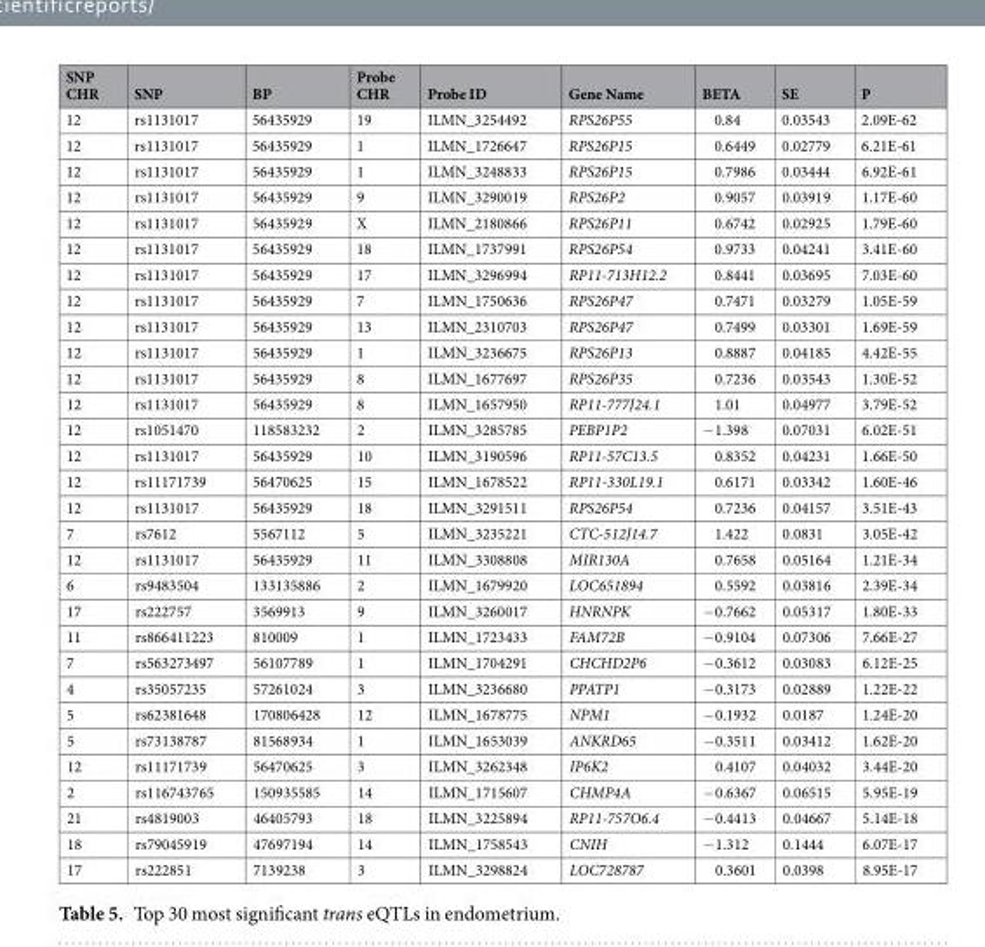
<table><thead><tr><td>SNP CHR</td><td>SNP</td><td>BP</td><td>Probe CHR</td><td>Probe ID</td><td>Gene Name</td><td>BETA</td><td>SE</td><td>P</td></tr></thead><tbody><tr><td>12</td><td>rs1131017</td><td>56435929</td><td>19</td><td>ILMN_3254492</td><td>RPS26P55</td><td>0.84</td><td>0.03543</td><td>2.09E-62</td></tr><tr><td>12</td><td>rs1131017</td><td>56435929</td><td>1</td><td>ILMN_1726647</td><td>RPS26P15</td><td>0.6449</td><td>0.02779</td><td>6.21E-61</td></tr><tr><td>12</td><td>rs1131017</td><td>56435929</td><td>1</td><td>ILMN_3248833</td><td>RPS26P15</td><td>0.7986</td><td>0.03444</td><td>6.92E-61</td></tr><tr><td>12</td><td>rs1131017</td><td>56435929</td><td>9</td><td>ILMN_3290019</td><td>RPS26P2</td><td>0.9057</td><td>0.03919</td><td>1.17E-60</td></tr><tr><td>12</td><td>rs1131017</td><td>56435929</td><td>X</td><td>ILMN_2180866</td><td>RPS26P11</td><td>0.6742</td><td>0.02925</td><td>1.79E-60</td></tr><tr><td>12</td><td>rs1131017</td><td>56435929</td><td>18</td><td>ILMN_1737991</td><td>RPS26P54</td><td>0.9733</td><td>0.04241</td><td>3.41E-60</td></tr><tr><td>12</td><td>rs1131017</td><td>56435929</td><td>17</td><td>ILMN_3296994</td><td>RP11-713H12.2</td><td>0.8441</td><td>0.03695</td><td>7.03E-60</td></tr><tr><td>12</td><td>rs1131017</td><td>56435929</td><td>7</td><td>ILMN_1750636</td><td>RPS26P47</td><td>0.7471</td><td>0.03279</td><td>1.05E-59</td></tr><tr><td>12</td><td>rs1131017</td><td>56435929</td><td>13</td><td>ILMN_2310703</td><td>RPS26P47</td><td>0.7499</td><td>0.03301</td><td>1.69E-59</td></tr><tr><td>12</td><td>rs1131017</td><td>56435929</td><td>1</td><td>ILMN_3236675</td><td>RPS26P13</td><td>0.8887</td><td>0.04185</td><td>4.42E-55</td></tr><tr><td>12</td><td>rs1131017</td><td>56435929</td><td>8</td><td>ILMN_1677697</td><td>RPS26P35</td><td>0.7236</td><td>0.03543</td><td>1.30E-52</td></tr><tr><td>12</td><td>rs1131017</td><td>56435929</td><td>8</td><td>ILMN_1657950</td><td>RP11-777J24.1</td><td>1.01</td><td>0.04977</td><td>3.79E-52</td></tr><tr><td>12</td><td>rs1051470</td><td>118583232</td><td>2</td><td>ILMN_3285785</td><td>PEBP1P2</td><td>−1.398</td><td>0.07031</td><td>6.02E-51</td></tr><tr><td>12</td><td>rs1131017</td><td>56435929</td><td>10</td><td>ILMN_3190596</td><td>RP11-57C13.5</td><td>0.8352</td><td>0.04231</td><td>1.66E-50</td></tr><tr><td>12</td><td>rs11171739</td><td>56470625</td><td>15</td><td>ILMN_1678522</td><td>RP11-330L19.1</td><td>0.6171</td><td>0.03342</td><td>1.60E-46</td></tr><tr><td>12</td><td>rs1131017</td><td>56435929</td><td>18</td><td>ILMN_3291511</td><td>RPS26P54</td><td>0.7236</td><td>0.04157</td><td>3.51E-43</td></tr><tr><td>7</td><td>rs7612</td><td>5567112</td><td>5</td><td>ILMN_3235221</td><td>CTC-512J14.7</td><td>1.422</td><td>0.0831</td><td>3.05E-42</td></tr><tr><td>12</td><td>rs1131017</td><td>56435929</td><td>11</td><td>ILMN_3308808</td><td>MIR130A</td><td>0.7658</td><td>0.05164</td><td>1.21E-34</td></tr><tr><td>6</td><td>rs9483504</td><td>133135886</td><td>2</td><td>ILMN_1679920</td><td>LOC651894</td><td>0.5592</td><td>0.03816</td><td>2.39E-34</td></tr><tr><td>17</td><td>rs222757</td><td>3569913</td><td>9</td><td>ILMN_3260017</td><td>HNRNPK</td><td>−0.7662</td><td>0.05317</td><td>1.80E-33</td></tr><tr><td>11</td><td>rs866411223</td><td>810009</td><td>1</td><td>ILMN_1723433</td><td>FAM72B</td><td>−0.9104</td><td>0.07306</td><td>7.66E-27</td></tr><tr><td>7</td><td>rs563273497</td><td>56107789</td><td>1</td><td>ILMN_1704291</td><td>CHCHD2P6</td><td>−0.3612</td><td>0.03083</td><td>6.12E-25</td></tr><tr><td>4</td><td>rs35057235</td><td>57261024</td><td>3</td><td>ILMN_3236680</td><td>PPATP1</td><td>−0.3173</td><td>0.02889</td><td>1.22E-22</td></tr><tr><td>5</td><td>rs62381648</td><td>170806428</td><td>12</td><td>ILMN_1678775</td><td>NPM1</td><td>−0.1932</td><td>0.0187</td><td>1.24E-20</td></tr><tr><td>5</td><td>rs73138787</td><td>81568934</td><td>1</td><td>ILMN_1653039</td><td>ANKRD65</td><td>−0.3511</td><td>0.03412</td><td>1.62E-20</td></tr><tr><td>12</td><td>rs11171739</td><td>56470625</td><td>3</td><td>ILMN_3262348</td><td>IP6K2</td><td>0.4107</td><td>0.04032</td><td>3.44E-20</td></tr><tr><td>2</td><td>rs116743765</td><td>150935585</td><td>14</td><td>ILMN_1715607</td><td>CHMP4A</td><td>−0.6367</td><td>0.06515</td><td>5.95E-19</td></tr><tr><td>21</td><td>rs4819003</td><td>46405793</td><td>18</td><td>ILMN_3225894</td><td>RP11-757O6.4</td><td>−0.4413</td><td>0.04667</td><td>5.14E-18</td></tr><tr><td>18</td><td>rs79045919</td><td>47697194</td><td>14</td><td>ILMN_1758543</td><td>CNIH</td><td>−1.312</td><td>0.1444</td><td>6.07E-17</td></tr><tr><td>17</td><td>rs222851</td><td>7139238</td><td>3</td><td>ILMN_3298824</td><td>LOC728787</td><td>0.3601</td><td>0.0398</td><td>8.95E-17</td></tr></tbody></table>